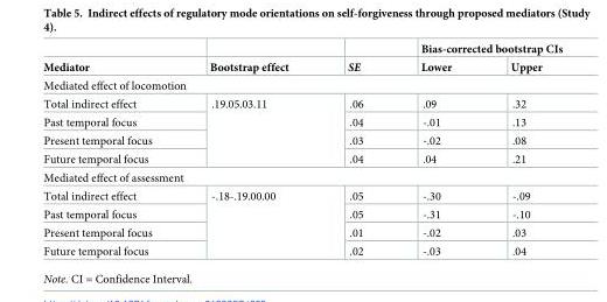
<table><thead><tr><td rowspan="2">Mediator</td><td rowspan="2">Bootstrap effect</td><td rowspan="2">SE</td><td colspan="2">Bias-corrected bootstrap CIs</td></tr><tr><td>Lower</td><td>Upper</td></tr></thead><tbody><tr><td colspan="5">Mediated effect of locomotion</td></tr><tr><td>Total indirect effect</td><td rowspan="4">.19.05.03.11</td><td>.06</td><td>.09</td><td>.32</td></tr><tr><td>Past temporal focus</td><td>.04</td><td>-.01</td><td>.13</td></tr><tr><td>Present temporal focus</td><td>.03</td><td>-.02</td><td>.08</td></tr><tr><td>Future temporal focus</td><td>.04</td><td>.04</td><td>.21</td></tr><tr><td colspan="5">Mediated effect of assessment</td></tr><tr><td>Total indirect effect</td><td rowspan="4">-.18-.19.00.00</td><td>.05</td><td>-.30</td><td>-.09</td></tr><tr><td>Past temporal focus</td><td>.05</td><td>-.31</td><td>-.10</td></tr><tr><td>Present temporal focus</td><td>.01</td><td>-.02</td><td>.03</td></tr><tr><td>Future temporal focus</td><td>.02</td><td>-.03</td><td>.04</td></tr></tbody></table>